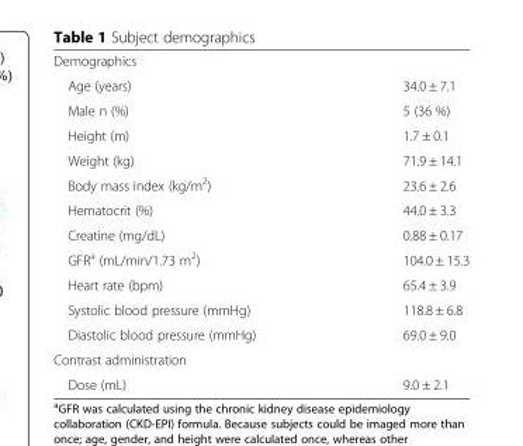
<table><tbody><tr><td colspan="2">Demographics</td></tr><tr><td>Age (years)</td><td>34.0 ± 7.1</td></tr><tr><td>Male n (%)</td><td>5 (36 %)</td></tr><tr><td>Height (m)</td><td>1.7 ± 0.1</td></tr><tr><td>Weight (kg)</td><td>71.9 ± 14.1</td></tr><tr><td>Body mass index (kg/m<sup>2</sup>)</td><td>23.6 ± 2.6</td></tr><tr><td>Hematocrit (%)</td><td>44.0 ± 3.3</td></tr><tr><td>Creatine (mg/dL)</td><td>0.88 ± 0.17</td></tr><tr><td>GFR<sup>a</sup> (mL/min/1.73 m<sup>2</sup>)</td><td>104.0 ± 15.3</td></tr><tr><td>Heart rate (bpm)</td><td>65.4 ± 3.9</td></tr><tr><td>Systolic blood pressure (mmHg)</td><td>118.8 ± 6.8</td></tr><tr><td>Diastolic blood pressure (mmHg)</td><td>69.0 ± 9.0</td></tr><tr><td colspan="2">Contrast administration</td></tr><tr><td>Dose (mL)</td><td>9.0 ± 2.1</td></tr></tbody></table>